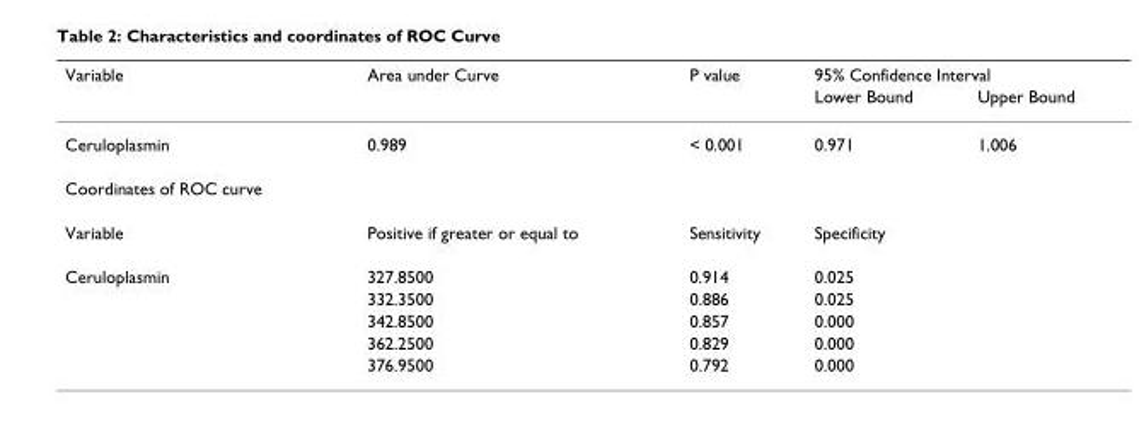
<table><thead><tr><td rowspan="2">Variable</td><td rowspan="2">Area under Curve</td><td rowspan="2">P value</td><td colspan="2">95% Confidence Interval</td></tr><tr><td>Lower Bound</td><td>Upper Bound</td></tr></thead><tbody><tr><td>Ceruloplasmin</td><td>0.989</td><td>&lt; 0.001</td><td>0.971</td><td>1.006</td></tr><tr><td colspan="5">Coordinates of ROC curve</td></tr><tr><td>Variable</td><td>Positive if greater or equal to</td><td>Sensitivity</td><td>Specificity</td><td></td></tr><tr><td rowspan="5">Ceruloplasmin</td><td>327.8500</td><td>0.914</td><td>0.025</td><td></td></tr><tr><td>332.3500</td><td>0.886</td><td>0.025</td><td></td></tr><tr><td>342.8500</td><td>0.857</td><td>0.000</td><td></td></tr><tr><td>362.2500</td><td>0.829</td><td>0.000</td><td></td></tr><tr><td>376.9500</td><td>0.792</td><td>0.000</td><td></td></tr></tbody></table>